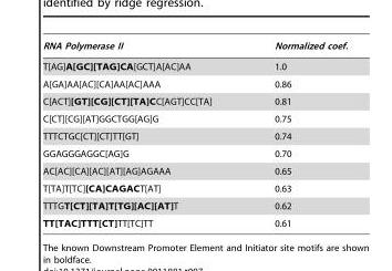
<table><thead><tr><td>RNA Polymerase II</td><td>Normalized coef.</td></tr></thead><tbody><tr><td>T[AG]A[GC][TAG]CA[GCT]A[AC]AA</td><td>1.0</td></tr><tr><td>A[GA]AA[AC][CA]AA[AC]AAA</td><td>0.86</td></tr><tr><td>C[ACT][GT][CG][CT][TA]CC[AGT]CC[TA]</td><td>0.81</td></tr><tr><td>C[CT][CG][AT]GGCTGG[AG]G</td><td>0.75</td></tr><tr><td>TTTCTGC[CT][CT]TT[GT]</td><td>0.74</td></tr><tr><td>GGAGGGAGGC[AG]G</td><td>0.70</td></tr><tr><td>AC[AC][CA][AC][AT][AG]AGAAA</td><td>0.65</td></tr><tr><td>T[TA]T[TC][CA]CAGACT[AT]</td><td>0.63</td></tr><tr><td>TTTGT[CT][TA]T[TG][AC][AT]T</td><td>0.62</td></tr><tr><td>TT[TAC]TTT[CT]TT[TC]TT</td><td>0.61</td></tr></tbody></table>